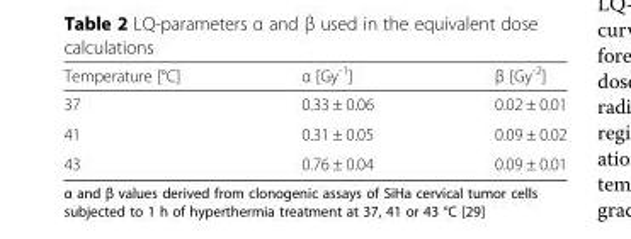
<table><thead><tr><td>Temperature [°C]</td><td>α [Gy<sup>-1</sup>]</td><td>β [Gy<sup>-2</sup>]</td></tr></thead><tbody><tr><td>37</td><td>0.33 ± 0.06</td><td>0.02 ± 0.01</td></tr><tr><td>41</td><td>0.31 ± 0.05</td><td>0.09 ± 0.02</td></tr><tr><td>43</td><td>0.76 ± 0.04</td><td>0.09 ± 0.01</td></tr></tbody></table>